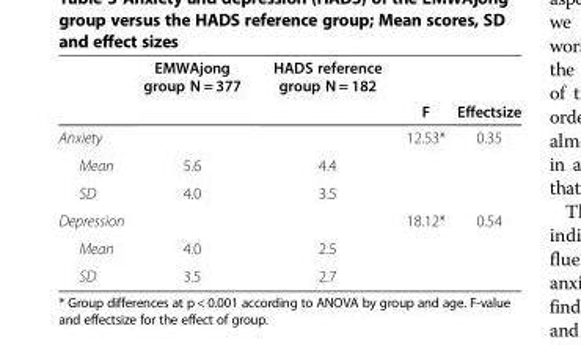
<table><thead><tr><td rowspan="2"></td><td rowspan="2">EMWAjong group N = 377</td><td rowspan="2">HADS reference group N = 182</td><td rowspan="2">F</td><td rowspan="2">Effectsize</td></tr><tr></tr></thead><tbody><tr><td>Anxiety</td><td></td><td></td><td>12.53*</td><td>0.35</td></tr><tr><td>Mean</td><td>5.6</td><td>4.4</td><td></td><td></td></tr><tr><td>SD</td><td>4.0</td><td>3.5</td><td></td><td></td></tr><tr><td>Depression</td><td></td><td></td><td>18.12*</td><td>0.54</td></tr><tr><td>Mean</td><td>4.0</td><td>2.5</td><td></td><td></td></tr><tr><td>SD</td><td>3.5</td><td>2.7</td><td></td><td></td></tr></tbody></table>